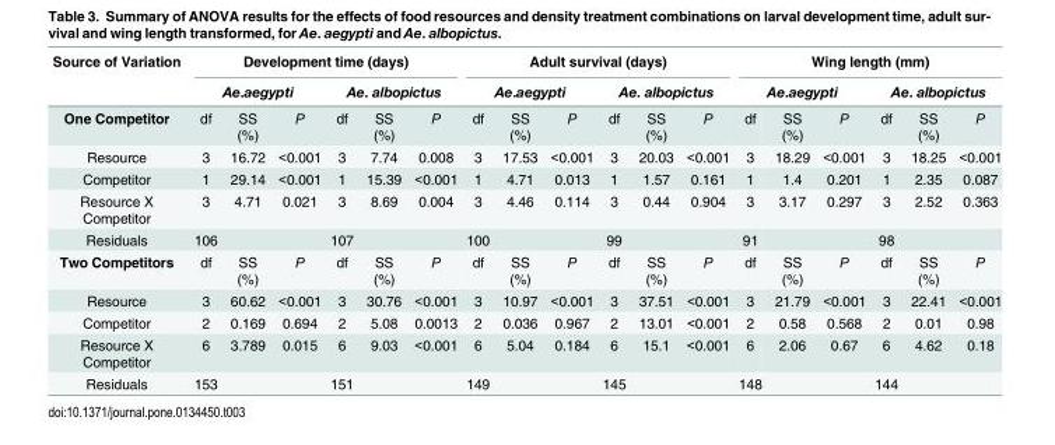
<table><thead><tr><td rowspan="3">Source of Variation One Competitor</td><td colspan="6">Development time (days)</td><td colspan="6">Adult survival (days)</td><td colspan="6">Wing length (mm)</td></tr><tr><td colspan="3">Ae.aegypti</td><td colspan="3">Ae. albopictus</td><td colspan="3">Ae.aegypti</td><td colspan="3">Ae. albopictus</td><td colspan="3">Ae.aegypti</td><td colspan="3">Ae. albopictus</td></tr><tr><td>df</td><td>SS (%)</td><td>P</td><td>df</td><td>SS (%)</td><td>P</td><td>df</td><td>SS (%)</td><td>P</td><td>df</td><td>SS (%)</td><td>P</td><td>df</td><td>SS (%)</td><td>P</td><td>df</td><td>SS (%)</td><td>P</td></tr></thead><tbody><tr><td>Resource</td><td>3</td><td>16.72</td><td>&lt;0.001</td><td>3</td><td>7.74</td><td>0.008</td><td>3</td><td>17.53</td><td>&lt;0.001</td><td>3</td><td>20.03</td><td>&lt;0.001</td><td>3</td><td>18.29</td><td>&lt;0.001</td><td>3</td><td>18.25</td><td>&lt;0.001</td></tr><tr><td>Competitor</td><td>1</td><td>29.14</td><td>&lt;0.001</td><td>1</td><td>15.39</td><td>&lt;0.001</td><td>1</td><td>4.71</td><td>0.013</td><td>1</td><td>1.57</td><td>0.161</td><td>1</td><td>1.4</td><td>0.201</td><td>1</td><td>2.35</td><td>0.087</td></tr><tr><td>Resource X Competitor</td><td>3</td><td>4.71</td><td>0.021</td><td>3</td><td>8.69</td><td>0.004</td><td>3</td><td>4.46</td><td>0.114</td><td>3</td><td>0.44</td><td>0.904</td><td>3</td><td>3.17</td><td>0.297</td><td>3</td><td>2.52</td><td>0.363</td></tr><tr><td>Residuals</td><td>106</td><td></td><td></td><td>107</td><td></td><td></td><td>100</td><td></td><td></td><td>99</td><td></td><td></td><td>91</td><td></td><td></td><td>98</td><td></td><td></td></tr><tr><td>Two Competitors</td><td>df</td><td>SS (%)</td><td>P</td><td>df</td><td>SS (%)</td><td>P</td><td>df</td><td>SS (%)</td><td>P</td><td>df</td><td>SS (%)</td><td>P</td><td>df</td><td>SS (%)</td><td>P</td><td>df</td><td>SS (%)</td><td>P</td></tr><tr><td>Resource</td><td>3</td><td>60.62</td><td>&lt;0.001</td><td>3</td><td>30.76</td><td>&lt;0.001</td><td>3</td><td>10.97</td><td>&lt;0.001</td><td>3</td><td>37.51</td><td>&lt;0.001</td><td>3</td><td>21.79</td><td>&lt;0.001</td><td>3</td><td>22.41</td><td>&lt;0.001</td></tr><tr><td>Competitor</td><td>2</td><td>0.169</td><td>0.694</td><td>2</td><td>5.08</td><td>0.0013</td><td>2</td><td>0.036</td><td>0.967</td><td>2</td><td>13.01</td><td>&lt;0.001</td><td>2</td><td>0.58</td><td>0.568</td><td>2</td><td>0.01</td><td>0.98</td></tr><tr><td>Resource X Competitor</td><td>6</td><td>3.789</td><td>0.015</td><td>6</td><td>9.03</td><td>&lt;0.001</td><td>6</td><td>5.04</td><td>0.184</td><td>6</td><td>15.1</td><td>&lt;0.001</td><td>6</td><td>2.06</td><td>0.67</td><td>6</td><td>4.62</td><td>0.18</td></tr><tr><td>Residuals</td><td>153</td><td></td><td></td><td>151</td><td></td><td></td><td>149</td><td></td><td></td><td>145</td><td></td><td></td><td>148</td><td></td><td></td><td>144</td><td></td><td></td></tr></tbody></table>